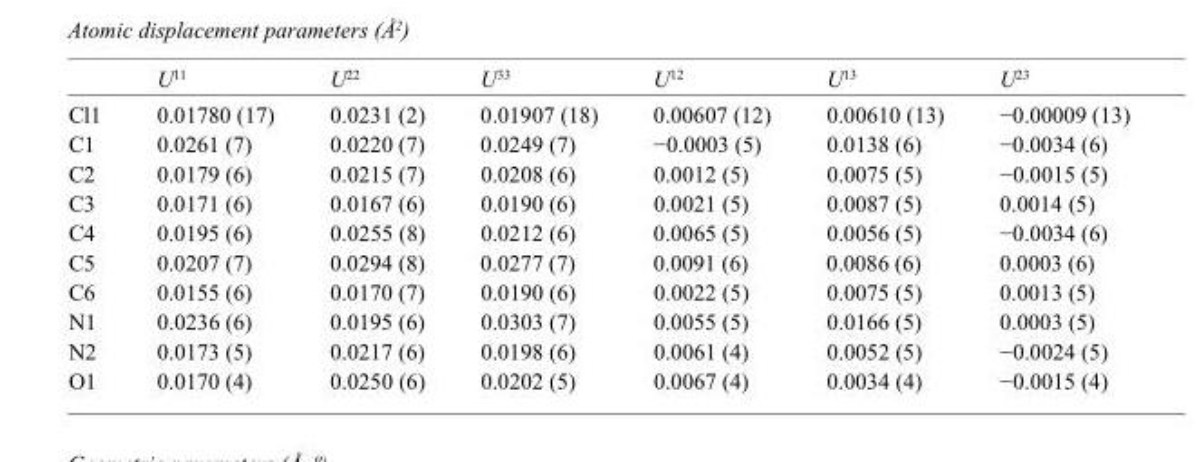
<table><thead><tr><td></td><td>U<sup>11</sup></td><td>U<sup>22</sup></td><td>U<sup>33</sup></td><td>U<sup>12</sup></td><td>U<sup>13</sup></td><td>U<sup>23</sup></td></tr></thead><tbody><tr><td>Cl1</td><td>0.01780 (17)</td><td>0.0231 (2)</td><td>0.01907 (18)</td><td>0.00607 (12)</td><td>0.00610 (13)</td><td>−0.00009 (13)</td></tr><tr><td>C1</td><td>0.0261 (7)</td><td>0.0220 (7)</td><td>0.0249 (7)</td><td>−0.0003 (5)</td><td>0.0138 (6)</td><td>−0.0034 (6)</td></tr><tr><td>C2</td><td>0.0179 (6)</td><td>0.0215 (7)</td><td>0.0208 (6)</td><td>0.0012 (5)</td><td>0.0075 (5)</td><td>−0.0015 (5)</td></tr><tr><td>C3</td><td>0.0171 (6)</td><td>0.0167 (6)</td><td>0.0190 (6)</td><td>0.0021 (5)</td><td>0.0087 (5)</td><td>0.0014 (5)</td></tr><tr><td>C4</td><td>0.0195 (6)</td><td>0.0255 (8)</td><td>0.0212 (6)</td><td>0.0065 (5)</td><td>0.0056 (5)</td><td>−0.0034 (6)</td></tr><tr><td>C5</td><td>0.0207 (7)</td><td>0.0294 (8)</td><td>0.0277 (7)</td><td>0.0091 (6)</td><td>0.0086 (6)</td><td>0.0003 (6)</td></tr><tr><td>C6</td><td>0.0155 (6)</td><td>0.0170 (7)</td><td>0.0190 (6)</td><td>0.0022 (5)</td><td>0.0075 (5)</td><td>0.0013 (5)</td></tr><tr><td>N1</td><td>0.0236 (6)</td><td>0.0195 (6)</td><td>0.0303 (7)</td><td>0.0055 (5)</td><td>0.0166 (5)</td><td>0.0003 (5)</td></tr><tr><td>N2</td><td>0.0173 (5)</td><td>0.0217 (6)</td><td>0.0198 (6)</td><td>0.0061 (4)</td><td>0.0052 (5)</td><td>−0.0024 (5)</td></tr><tr><td>O1</td><td>0.0170 (4)</td><td>0.0250 (6)</td><td>0.0202 (5)</td><td>0.0067 (4)</td><td>0.0034 (4)</td><td>−0.0015 (4)</td></tr></tbody></table>